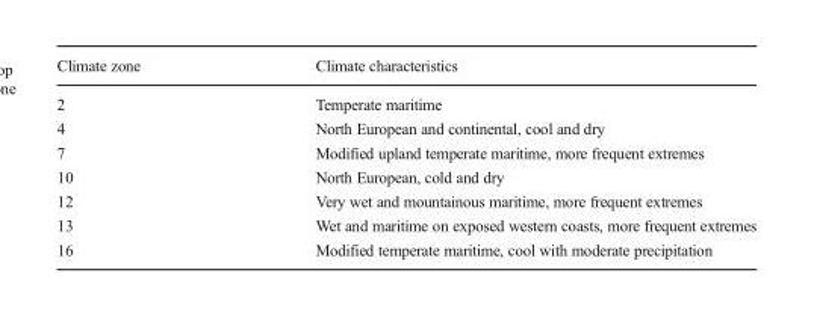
<table><thead><tr><td>Climate zone</td><td>Climate characteristics</td></tr></thead><tbody><tr><td>2</td><td>Temperate maritime</td></tr><tr><td>4</td><td>North European and continental, cool and dry</td></tr><tr><td>7</td><td>Modified upland temperate maritime, more frequent extremes</td></tr><tr><td>10</td><td>North European, cold and dry</td></tr><tr><td>12</td><td>Very wet and mountainous maritime, more frequent extremes</td></tr><tr><td>13</td><td>Wet and maritime on exposed western coasts, more frequent extremes</td></tr><tr><td>16</td><td>Modified temperate maritime, cool with moderate precipitation</td></tr></tbody></table>